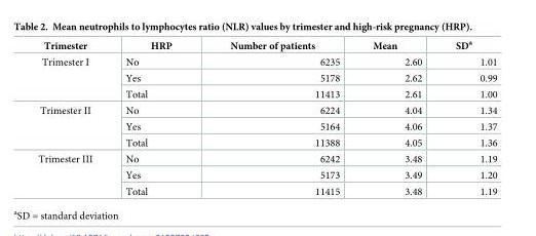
<table><thead><tr><td>Trimester</td><td>HRP</td><td>Number of patients</td><td>Mean</td><td>SD<sup>a</sup></td></tr></thead><tbody><tr><td rowspan="3">Trimester I</td><td>No</td><td>6235</td><td>2.60</td><td>1.01</td></tr><tr><td>Yes</td><td>5178</td><td>2.62</td><td>0.99</td></tr><tr><td>Total</td><td>11413</td><td>2.61</td><td>1.00</td></tr><tr><td rowspan="3">Trimester II</td><td>No</td><td>6224</td><td>4.04</td><td>1.34</td></tr><tr><td>Yes</td><td>5164</td><td>4.06</td><td>1.37</td></tr><tr><td>Total</td><td>11388</td><td>4.05</td><td>1.36</td></tr><tr><td rowspan="3">Trimester III</td><td>No</td><td>6242</td><td>3.48</td><td>1.19</td></tr><tr><td>Yes</td><td>5173</td><td>3.49</td><td>1.20</td></tr><tr><td>Total</td><td>11415</td><td>3.48</td><td>1.19</td></tr></tbody></table>